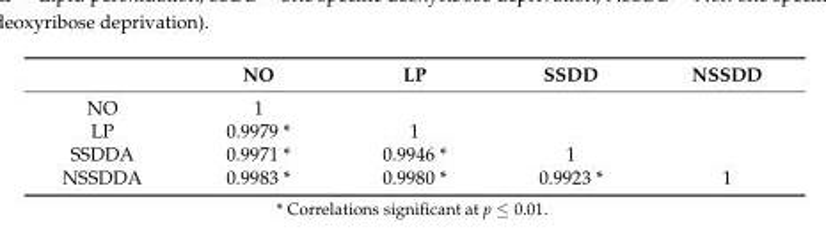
<table><thead><tr><td></td><td>NO</td><td>LP</td><td>SSDD</td><td>NSSDD</td></tr></thead><tbody><tr><td>NO</td><td>1</td><td></td><td></td><td></td></tr><tr><td>LP</td><td>0.9979 *</td><td>1</td><td></td><td></td></tr><tr><td>SSDDA</td><td>0.9971 *</td><td>0.9946 *</td><td>1</td><td></td></tr><tr><td>NSSDDA</td><td>0.9983 *</td><td>0.9980 *</td><td>0.9923 *</td><td>1</td></tr></tbody></table>